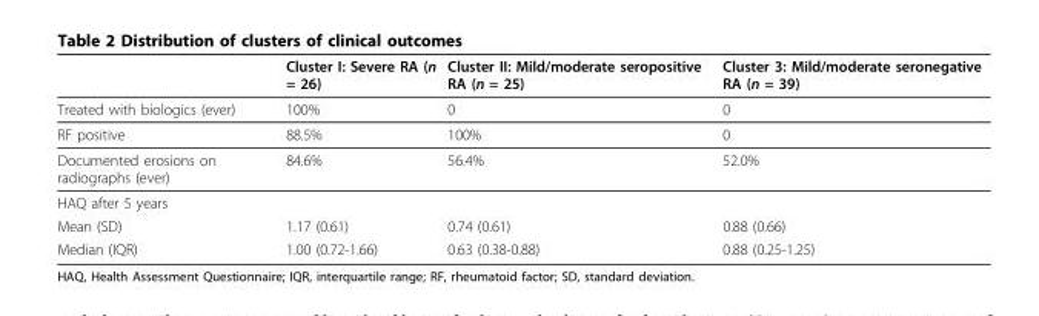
<table><thead><tr><td></td><td>Cluster I: Severe RA (n = 26)</td><td>Cluster II: Mild/moderate seropositive RA (n = 25)</td><td>Cluster 3: Mild/moderate seronegative RA (n = 39)</td></tr></thead><tbody><tr><td>Treated with biologics (ever)</td><td>100%</td><td>0</td><td>0</td></tr><tr><td>RF positive</td><td>88.5%</td><td>100%</td><td>0</td></tr><tr><td>Documented erosions on radiographs (ever)</td><td>84.6%</td><td>56.4%</td><td>52.0%</td></tr><tr><td colspan="4">HAQ after 5 years</td></tr><tr><td>Mean (SD)</td><td>1.17 (0.61)</td><td>0.74 (0.61)</td><td>0.88 (0.66)</td></tr><tr><td>Median (IQR)</td><td>1.00 (0.72-1.66)</td><td>0.63 (0.38-0.88)</td><td>0.88 (0.25-1.25)</td></tr></tbody></table>